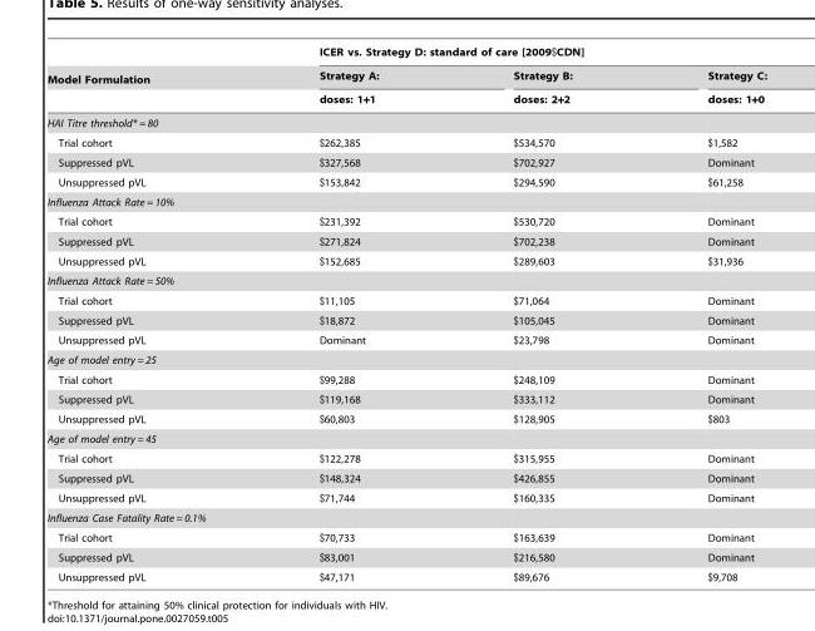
<table><thead><tr><td rowspan="3">Model Formulation</td><td colspan="3">ICER vs. Strategy D: standard of care [2009$CDN]</td></tr><tr><td rowspan="2">Strategy A: doses: 1+1</td><td rowspan="2">Strategy B: doses: 2+2</td><td rowspan="2">Strategy C: doses: 1+0</td></tr><tr></tr></thead><tbody><tr><td colspan="4">HAI Titre threshold* = 80</td></tr><tr><td>Trial cohort</td><td>$262,385</td><td>$534,570</td><td>$1,582</td></tr><tr><td>Suppressed pVL</td><td>$327,568</td><td>$702,927</td><td>Dominant</td></tr><tr><td>Unsuppressed pVL</td><td>$153,842</td><td>$294,590</td><td>$61,258</td></tr><tr><td colspan="4">Influenza Attack Rate = 10%</td></tr><tr><td>Trial cohort</td><td>$231,392</td><td>$530,720</td><td>Dominant</td></tr><tr><td>Suppressed pVL</td><td>$271,824</td><td>$702,238</td><td>Dominant</td></tr><tr><td>Unsuppressed pVL</td><td>$152,685</td><td>$289,603</td><td>$31,936</td></tr><tr><td colspan="4">Influenza Attack Rate = 50%</td></tr><tr><td>Trial cohort</td><td>$11,105</td><td>$71,064</td><td>Dominant</td></tr><tr><td>Suppressed pVL</td><td>$18,872</td><td>$105,045</td><td>Dominant</td></tr><tr><td>Unsuppressed pVL</td><td>Dominant</td><td>$23,798</td><td>Dominant</td></tr><tr><td colspan="4">Age of model entry = 25</td></tr><tr><td>Trial cohort</td><td>$99,288</td><td>$248,109</td><td>Dominant</td></tr><tr><td>Suppressed pVL</td><td>$119,168</td><td>$333,112</td><td>Dominant</td></tr><tr><td>Unsuppressed pVL</td><td>$60,803</td><td>$128,905</td><td>$803</td></tr><tr><td colspan="4">Age of model entry = 45</td></tr><tr><td>Trial cohort</td><td>$122,278</td><td>$315,955</td><td>Dominant</td></tr><tr><td>Suppressed pVL</td><td>$148,324</td><td>$426,855</td><td>Dominant</td></tr><tr><td>Unsuppressed pVL</td><td>$71,744</td><td>$160,335</td><td>Dominant</td></tr><tr><td colspan="4">Influenza Case Fatality Rate = 0.1%</td></tr><tr><td>Trial cohort</td><td>$70,733</td><td>$163,639</td><td>Dominant</td></tr><tr><td>Suppressed pVL</td><td>$83,001</td><td>$216,580</td><td>Dominant</td></tr><tr><td>Unsuppressed pVL</td><td>$47,171</td><td>$89,676</td><td>$9,708</td></tr></tbody></table>